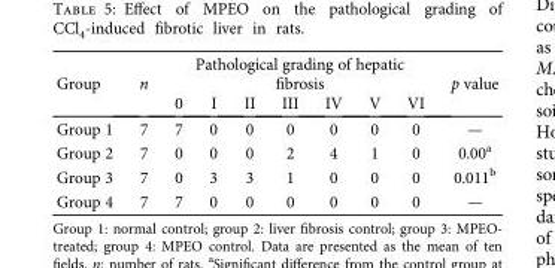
<table><thead><tr><td rowspan="2">Group</td><td rowspan="2">n</td><td colspan="7">Pathological grading of hepatic fibrosis</td><td rowspan="2">p value</td></tr><tr><td>0</td><td>I</td><td>II</td><td>III</td><td>IV</td><td>V</td><td>VI</td></tr></thead><tbody><tr><td>Group 1</td><td>7</td><td>7</td><td>0</td><td>0</td><td>0</td><td>0</td><td>0</td><td>0</td><td>—</td></tr><tr><td>Group 2</td><td>7</td><td>0</td><td>0</td><td>0</td><td>2</td><td>4</td><td>1</td><td>0</td><td>0.00<sup>a</sup></td></tr><tr><td>Group 3</td><td>7</td><td>0</td><td>3</td><td>3</td><td>1</td><td>0</td><td>0</td><td>0</td><td>0.011<sup>b</sup></td></tr><tr><td>Group 4</td><td>7</td><td>7</td><td>0</td><td>0</td><td>0</td><td>0</td><td>0</td><td>0</td><td>—</td></tr></tbody></table>